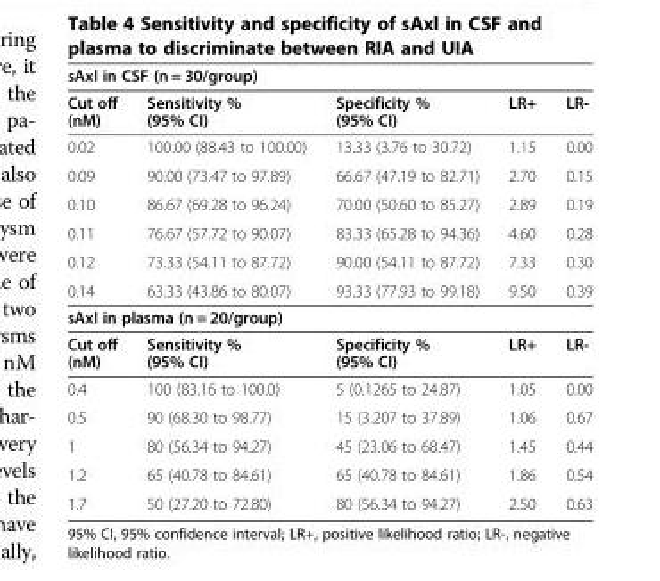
<table><thead><tr><td colspan="5">sAxl in CSF (n = 30/group)</td></tr><tr><td>Cut off (nM)</td><td>Sensitivity % (95% CI)</td><td>Specificity % (95% CI)</td><td>LR+</td><td>LR-</td></tr></thead><tbody><tr><td>0.02</td><td>100.00 (88.43 to 100.00)</td><td>13.33 (3.76 to 30.72)</td><td>1.15</td><td>0.00</td></tr><tr><td>0.09</td><td>90.00 (73.47 to 97.89)</td><td>66.67 (47.19 to 82.71)</td><td>2.70</td><td>0.15</td></tr><tr><td>0.10</td><td>86.67 (69.28 to 96.24)</td><td>70.00 (50.60 to 85.27)</td><td>2.89</td><td>0.19</td></tr><tr><td>0.11</td><td>76.67 (57.72 to 90.07)</td><td>83.33 (65.28 to 94.36)</td><td>4.60</td><td>0.28</td></tr><tr><td>0.12</td><td>73.33 (54.11 to 87.72)</td><td>90.00 (54.11 to 87.72)</td><td>7.33</td><td>0.30</td></tr><tr><td>0.14</td><td>63.33 (43.86 to 80.07)</td><td>93.33 (77.93 to 99.18)</td><td>9.50</td><td>0.39</td></tr><tr><td colspan="5">sAxl in plasma (n = 20/group)</td></tr><tr><td>Cut off (nM)</td><td>Sensitivity % (95% CI)</td><td>Specificity % (95% CI)</td><td>LR+</td><td>LR-</td></tr><tr><td>0.4</td><td>100 (83.16 to 100.0)</td><td>5 (0.1265 to 24.87)</td><td>1.05</td><td>0.00</td></tr><tr><td>0.5</td><td>90 (68.30 to 98.77)</td><td>15 (3.207 to 37.89)</td><td>1.06</td><td>0.67</td></tr><tr><td>1</td><td>80 (56.34 to 94.27)</td><td>45 (23.06 to 68.47)</td><td>1.45</td><td>0.44</td></tr><tr><td>1.2</td><td>65 (40.78 to 84.61)</td><td>65 (40.78 to 84.61)</td><td>1.86</td><td>0.54</td></tr><tr><td>1.7</td><td>50 (27.20 to 72.80)</td><td>80 (56.34 to 94.27)</td><td>2.50</td><td>0.63</td></tr></tbody></table>